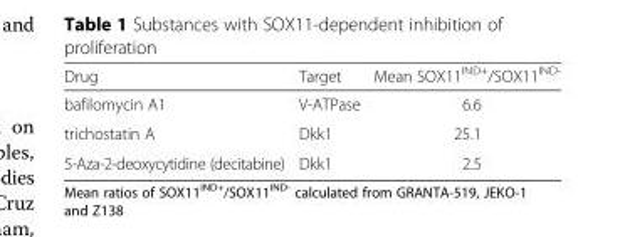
<table><thead><tr><td>Drug</td><td>Target</td><td>Mean SOX11<sup>IND+</sup>/SOX11<sup>IND-</sup></td></tr></thead><tbody><tr><td>bafilomycin A1</td><td>V-ATPase</td><td>6.6</td></tr><tr><td>trichostatin A</td><td>Dkk1</td><td>25.1</td></tr><tr><td>5-Aza-2-deoxycytidine (decitabine)</td><td>Dkk1</td><td>2.5</td></tr></tbody></table>